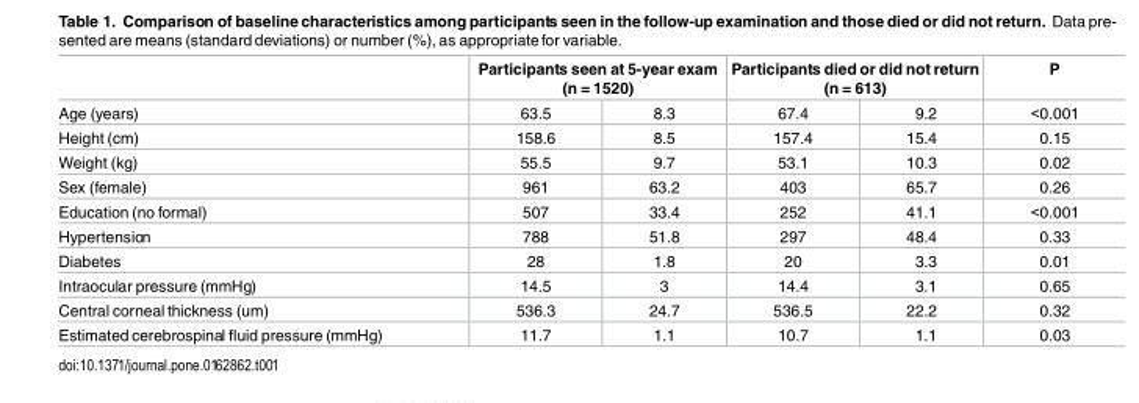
<table><thead><tr><td rowspan="2">Age (years)</td><td colspan="2">Participants seen at 5-year exam (n = 1520)</td><td colspan="2">Participants died or did not return (n = 613)</td><td rowspan="2">P &lt;0.001</td></tr><tr><td>63.5</td><td>8.3</td><td>67.4</td><td>9.2</td></tr></thead><tbody><tr><td>Height (cm)</td><td>158.6</td><td>8.5</td><td>157.4</td><td>15.4</td><td>0.15</td></tr><tr><td>Weight (kg)</td><td>55.5</td><td>9.7</td><td>53.1</td><td>10.3</td><td>0.02</td></tr><tr><td>Sex (female)</td><td>961</td><td>63.2</td><td>403</td><td>65.7</td><td>0.26</td></tr><tr><td>Education (no formal)</td><td>507</td><td>33.4</td><td>252</td><td>41.1</td><td>&lt;0.001</td></tr><tr><td>Hypertension</td><td>788</td><td>51.8</td><td>297</td><td>48.4</td><td>0.33</td></tr><tr><td>Diabetes</td><td>28</td><td>1.8</td><td>20</td><td>3.3</td><td>0.01</td></tr><tr><td>Intraocular pressure (mmHg)</td><td>14.5</td><td>3</td><td>14.4</td><td>3.1</td><td>0.65</td></tr><tr><td>Central corneal thickness (um)</td><td>536.3</td><td>24.7</td><td>536.5</td><td>22.2</td><td>0.32</td></tr><tr><td>Estimated cerebrospinal fluid pressure (mmHg)</td><td>11.7</td><td>1.1</td><td>10.7</td><td>1.1</td><td>0.03</td></tr></tbody></table>